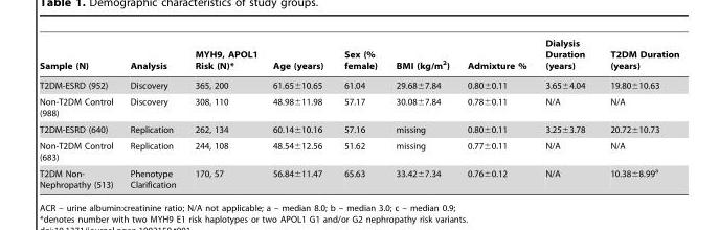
<table><thead><tr><td>Sample (N)</td><td>Analysis</td><td>MYH9, APOL1 Risk (N)*</td><td>Age (years)</td><td>Sex (% female)</td><td>BMI (kg/m<sup>2</sup>)</td><td>Admixture %</td><td>Dialysis Duration (years)</td><td>T2DM Duration (years)</td></tr></thead><tbody><tr><td>T2DM-ESRD (952)</td><td>Discovery</td><td>365, 200</td><td>61.65±10.65</td><td>61.04</td><td>29.68±7.84</td><td>0.80±0.11</td><td>3.65±4.04</td><td>19.80±10.63</td></tr><tr><td>Non-T2DM Control (988)</td><td>Discovery</td><td>308, 110</td><td>48.98±11.98</td><td>57.17</td><td>30.08±7.84</td><td>0.78±0.11</td><td>N/A</td><td>N/A</td></tr><tr><td>T2DM-ESRD (640)</td><td>Replication</td><td>262, 134</td><td>60.14±10.16</td><td>57.16</td><td>missing</td><td>0.80±0.11</td><td>3.25±3.78</td><td>20.72±10.73</td></tr><tr><td>Non-T2DM Control (683)</td><td>Replication</td><td>244, 108</td><td>48.54±12.56</td><td>51.62</td><td>missing</td><td>0.77±0.11</td><td>N/A</td><td>N/A</td></tr><tr><td>T2DM Non- Nephropathy (513)</td><td>Phenotype Clarification</td><td>170, 57</td><td>56.84±11.47</td><td>65.63</td><td>33.42±7.34</td><td>0.76±0.12</td><td>N/A</td><td>10.38±8.99<sup>a</sup></td></tr></tbody></table>